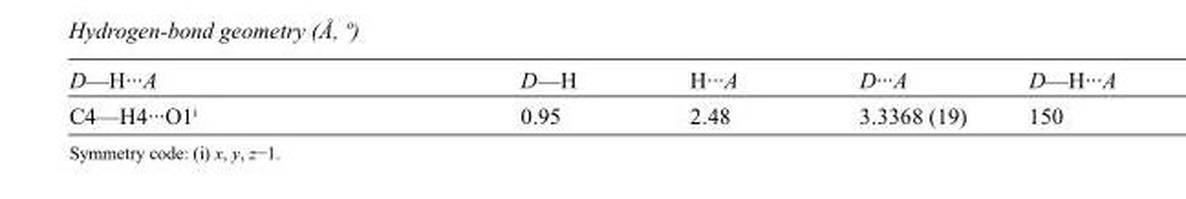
<table><tbody><tr><td>D—H···A</td><td>D—H</td><td>H···A</td><td>D···A</td><td>D—H···A</td></tr><tr><td>C4—H4···O1<sup>i</sup></td><td>0.95</td><td>2.48</td><td>3.3368 (19)</td><td>150</td></tr></tbody></table>